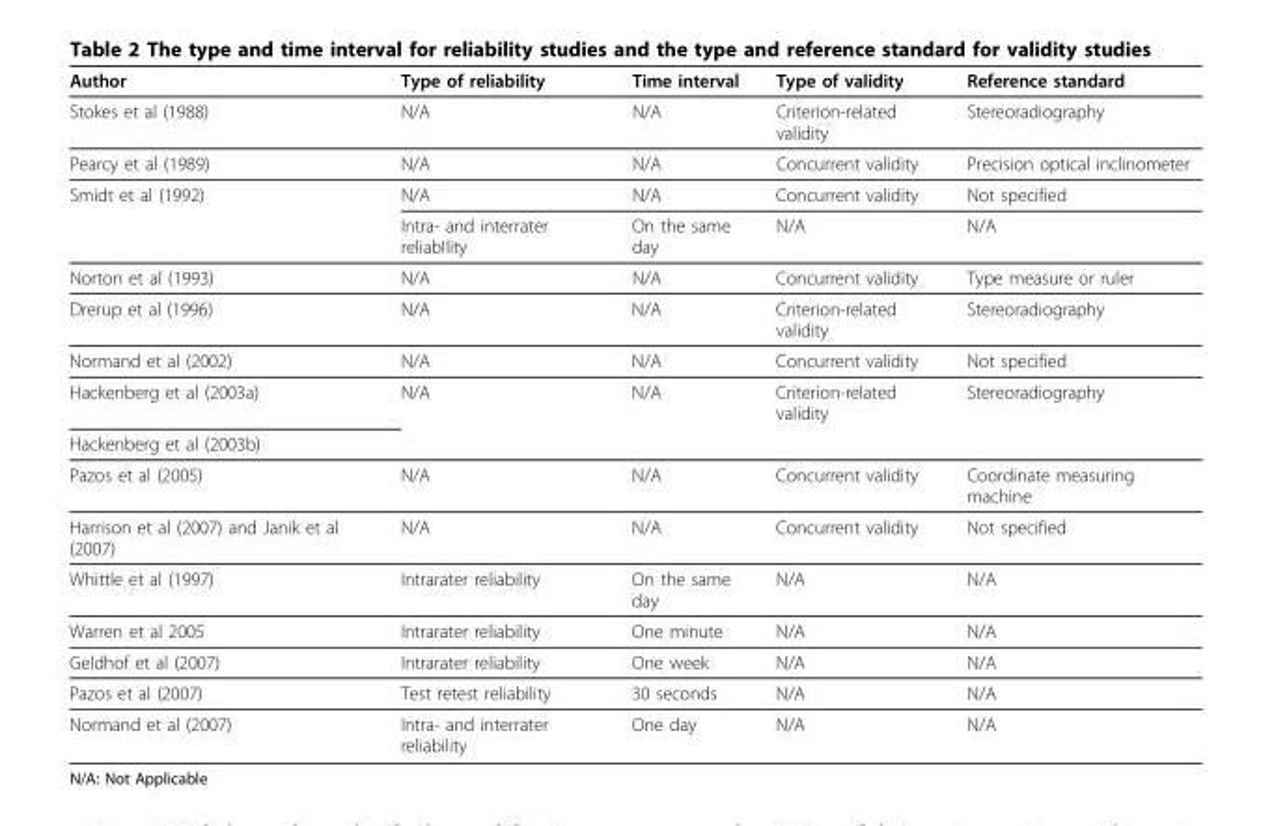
<table><thead><tr><td>Author</td><td>Type of reliability</td><td>Time interval</td><td>Type of validity</td><td>Reference standard</td></tr></thead><tbody><tr><td>Stokes et al (1988)</td><td>N/A</td><td>N/A</td><td>Criterion-related validity</td><td>Stereoradiography</td></tr><tr><td>Pearcy et al (1989)</td><td>N/A</td><td>N/A</td><td>Concurrent validity</td><td>Precision optical inclinometer</td></tr><tr><td rowspan="2">Smidt et al (1992)</td><td>N/A</td><td>N/A</td><td>Concurrent validity</td><td>Not specified</td></tr><tr><td>Intra- and interrater reliabIlity</td><td>On the same day</td><td>N/A</td><td>N/A</td></tr><tr><td>Norton et al (1993)</td><td>N/A</td><td>N/A</td><td>Concurrent validity</td><td>Type measure or ruler</td></tr><tr><td>Drerup et al (1996)</td><td>N/A</td><td>N/A</td><td>Criterion-related validity</td><td>Stereoradiography</td></tr><tr><td>Normand et al (2002)</td><td>N/A</td><td>N/A</td><td>Concurrent validity</td><td>Not specified</td></tr><tr><td>Hackenberg et al (2003a)</td><td>N/A</td><td>N/A</td><td>Criterion-related validity</td><td>Stereoradiography</td></tr><tr><td colspan="5">Hackenberg et al (2003b)</td></tr><tr><td>Pazos et al (2005)</td><td>N/A</td><td>N/A</td><td>Concurrent validity</td><td>Coordinate measuring machine</td></tr><tr><td>Harrison et al (2007) and Janik et al (2007)</td><td>N/A</td><td>N/A</td><td>Concurrent validity</td><td>Not specified</td></tr><tr><td>Whittle et al (1997)</td><td>Intrarater reliability</td><td>On the same day</td><td>N/A</td><td>N/A</td></tr><tr><td>Warren et al 2005</td><td>Intrarater reliability</td><td>One minute</td><td>N/A</td><td>N/A</td></tr><tr><td>Geldhof et al (2007)</td><td>Intrarater reliability</td><td>One week</td><td>N/A</td><td>N/A</td></tr><tr><td>Pazos et al (2007)</td><td>Test retest reliability</td><td>30 seconds</td><td>N/A</td><td>N/A</td></tr><tr><td>Normand et al (2007)</td><td>Intra- and interrater reliability</td><td>One day</td><td>N/A</td><td>N/A</td></tr></tbody></table>